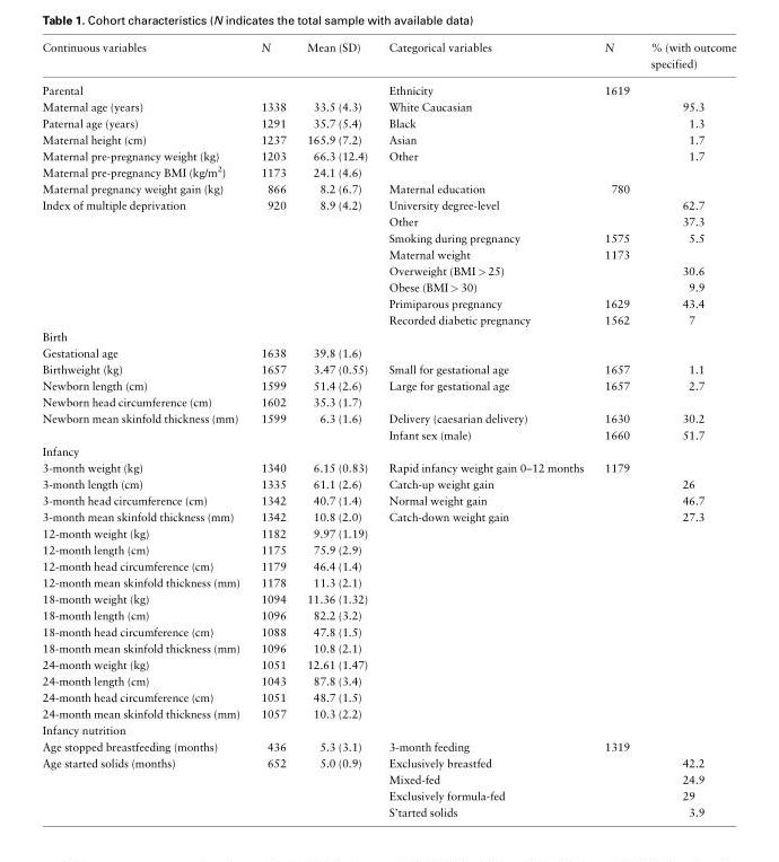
<table><thead><tr><td>Continuous variables</td><td>N</td><td>Mean (SD)</td><td>Categorical variables</td><td>N</td><td>% (with outcome specified)</td></tr></thead><tbody><tr><td>Parental</td><td></td><td></td><td>Ethnicity</td><td>1619</td><td></td></tr><tr><td>Maternal age (years)</td><td>1338</td><td>33.5 (4.3)</td><td>White Caucasian</td><td></td><td>95.3</td></tr><tr><td>Paternal age (years)</td><td>1291</td><td>35.7 (5.4)</td><td>Black</td><td></td><td>1.3</td></tr><tr><td>Maternal height (cm)</td><td>1237</td><td>165.9 (7.2)</td><td>Asian</td><td></td><td>1.7</td></tr><tr><td>Maternal pre-pregnancy weight (kg)</td><td>1203</td><td>66.3 (12.4)</td><td>Other</td><td></td><td>1.7</td></tr><tr><td>Maternal pre-pregnancy BMI (kg/m<sup>2</sup>)</td><td>1173</td><td>24.1 (4.6)</td><td></td><td></td><td></td></tr><tr><td>Maternal pregnancy weight gain (kg)</td><td>866</td><td>8.2 (6.7)</td><td>Maternal education</td><td>780</td><td></td></tr><tr><td rowspan="8">Index of multiple deprivation</td><td>920</td><td>8.9 (4.2)</td><td>University degree-level</td><td></td><td>62.7</td></tr><tr><td></td><td></td><td>Other</td><td></td><td>37.3</td></tr><tr><td></td><td></td><td>Smoking during pregnancy</td><td>1575</td><td>5.5</td></tr><tr><td></td><td></td><td>Maternal weight</td><td>1173</td><td></td></tr><tr><td></td><td></td><td>Overweight (BMI &gt; 25)</td><td></td><td>30.6</td></tr><tr><td></td><td></td><td>Obese (BMI &gt; 30)</td><td></td><td>9.9</td></tr><tr><td></td><td></td><td>Primiparous pregnancy</td><td>1629</td><td>43.4</td></tr><tr><td></td><td></td><td>Recorded diabetic pregnancy</td><td>1562</td><td>7</td></tr><tr><td colspan="6">Birth</td></tr><tr><td>Gestational age</td><td>1638</td><td>39.8 (1.6)</td><td></td><td></td><td></td></tr><tr><td>Birthweight (kg)</td><td>1657</td><td>3.47 (0.55)</td><td>Small for gestational age</td><td>1657</td><td>1.1</td></tr><tr><td>Newborn length (cm)</td><td>1599</td><td>51.4 (2.6)</td><td>Large for gestational age</td><td>1657</td><td>2.7</td></tr><tr><td>Newborn head circumference (cm)</td><td>1602</td><td>35.3 (1.7)</td><td></td><td></td><td></td></tr><tr><td rowspan="2">Newborn mean skinfold thickness (mm)</td><td>1599</td><td>6.3 (1.6)</td><td>Delivery (caesarian delivery)</td><td>1630</td><td>30.2</td></tr><tr><td></td><td></td><td>Infant sex (male)</td><td>1660</td><td>51.7</td></tr><tr><td colspan="6">Infancy</td></tr><tr><td>3-month weight (kg)</td><td>1340</td><td>6.15 (0.83)</td><td>Rapid infancy weight gain 0–12 months</td><td>1179</td><td></td></tr><tr><td>3-month length (cm)</td><td>1335</td><td>61.1 (2.6)</td><td>Catch-up weight gain</td><td></td><td>26</td></tr><tr><td>3-month head circumference (cm)</td><td>1342</td><td>40.7 (1.4)</td><td>Normal weight gain</td><td></td><td>46.7</td></tr><tr><td>3-month mean skinfold thickness (mm)</td><td>1342</td><td>10.8 (2.0)</td><td>Catch-down weight gain</td><td></td><td>27.3</td></tr><tr><td>12-month weight (kg)</td><td>1182</td><td>9.97 (1.19)</td><td></td><td></td><td></td></tr><tr><td>12-month length (cm)</td><td>1175</td><td>75.9 (2.9)</td><td></td><td></td><td></td></tr><tr><td>12-month head circumference (cm)</td><td>1179</td><td>46.4 (1.4)</td><td></td><td></td><td></td></tr><tr><td>12-month mean skinfold thickness (mm)</td><td>1178</td><td>11.3 (2.1)</td><td></td><td></td><td></td></tr><tr><td>18-month weight (kg)</td><td>1094</td><td>11.36 (1.32)</td><td></td><td></td><td></td></tr><tr><td>18-month length (cm)</td><td>1096</td><td>82.2 (3.2)</td><td></td><td></td><td></td></tr><tr><td>18-month head circumference (cm)</td><td>1088</td><td>47.8 (1.5)</td><td></td><td></td><td></td></tr><tr><td>18-month mean skinfold thickness (mm)</td><td>1096</td><td>10.8 (2.1)</td><td></td><td></td><td></td></tr><tr><td>24-month weight (kg)</td><td>1051</td><td>12.61 (1.47)</td><td></td><td></td><td></td></tr><tr><td>24-month length (cm)</td><td>1043</td><td>87.8 (3.4)</td><td></td><td></td><td></td></tr><tr><td>24-month head circumference (cm)</td><td>1051</td><td>48.7 (1.5)</td><td></td><td></td><td></td></tr><tr><td>24-month mean skinfold thickness (mm)</td><td>1057</td><td>10.3 (2.2)</td><td></td><td></td><td></td></tr><tr><td colspan="6">Infancy nutrition</td></tr><tr><td>Age stopped breastfeeding (months)</td><td>436</td><td>5.3 (3.1)</td><td>3-month feeding</td><td>1319</td><td></td></tr><tr><td rowspan="4">Age started solids (months)</td><td>652</td><td>5.0 (0.9)</td><td>Exclusively breastfed</td><td></td><td>42.2</td></tr><tr><td></td><td></td><td>Mixed-fed</td><td></td><td>24.9</td></tr><tr><td></td><td></td><td>Exclusively formula-fed</td><td></td><td>29</td></tr><tr><td></td><td></td><td>S’tarted solids</td><td></td><td>3.9</td></tr></tbody></table>